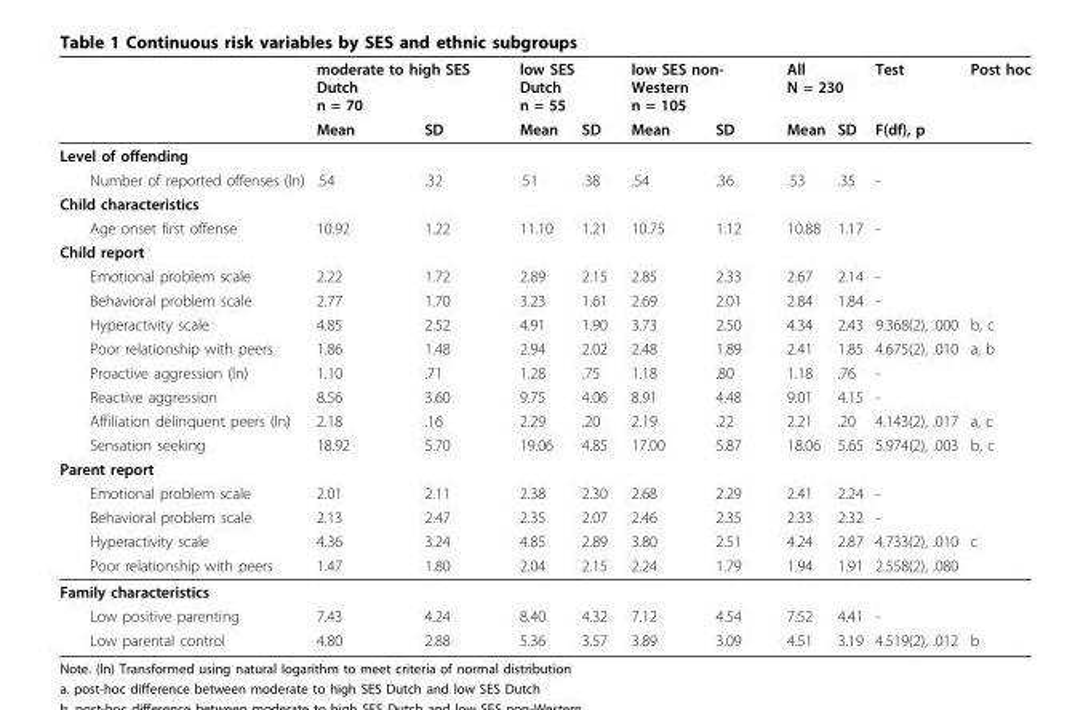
<table><thead><tr><td rowspan="2"></td><td colspan="2">moderate to high SES Dutch n = 70</td><td colspan="2">low SES Dutch n = 55</td><td colspan="2">low SES non- Western n = 105</td><td colspan="2">All N = 230</td><td rowspan="2">Test F(df), p</td><td rowspan="2">Post hoc</td></tr><tr><td>Mean</td><td>SD</td><td>Mean</td><td>SD</td><td>Mean</td><td>SD</td><td>Mean</td><td>SD</td></tr></thead><tbody><tr><td colspan="11">Level of offending</td></tr><tr><td>Number of reported offenses (ln)</td><td>.54</td><td>.32</td><td>.51</td><td>.38</td><td>.54</td><td>.36</td><td>.53</td><td>.35</td><td>-</td><td></td></tr><tr><td colspan="11">Child characteristics</td></tr><tr><td>Age onset first offense</td><td>10.92</td><td>1.22</td><td>11.10</td><td>1.21</td><td>10.75</td><td>1.12</td><td>10.88</td><td>1.17</td><td>-</td><td></td></tr><tr><td colspan="11">Child report</td></tr><tr><td>Emotional problem scale</td><td>2.22</td><td>1.72</td><td>2.89</td><td>2.15</td><td>2.85</td><td>2.33</td><td>2.67</td><td>2.14</td><td>-</td><td></td></tr><tr><td>Behavioral problem scale</td><td>2.77</td><td>1.70</td><td>3.23</td><td>1.61</td><td>2.69</td><td>2.01</td><td>2.84</td><td>1.84</td><td>-</td><td></td></tr><tr><td>Hyperactivity scale</td><td>4.85</td><td>2.52</td><td>4.91</td><td>1.90</td><td>3.73</td><td>2.50</td><td>4.34</td><td>2.43</td><td>9.368(2), .000</td><td>b, c</td></tr><tr><td>Poor relationship with peers</td><td>1.86</td><td>1.48</td><td>2.94</td><td>2.02</td><td>2.48</td><td>1.89</td><td>2.41</td><td>1.85</td><td>4.675(2), .010</td><td>a, b</td></tr><tr><td>Proactive aggression (ln)</td><td>1.10</td><td>.71</td><td>1.28</td><td>.75</td><td>1.18</td><td>.80</td><td>1.18</td><td>.76</td><td>-</td><td></td></tr><tr><td>Reactive aggression</td><td>8.56</td><td>3.60</td><td>9.75</td><td>4.06</td><td>8.91</td><td>4.48</td><td>9.01</td><td>4.15</td><td>-</td><td></td></tr><tr><td>Affiliation delinquent peers (ln)</td><td>2.18</td><td>.16</td><td>2.29</td><td>.20</td><td>2.19</td><td>.22</td><td>2.21</td><td>.20</td><td>4.143(2), .017</td><td>a, c</td></tr><tr><td>Sensation seeking</td><td>18.92</td><td>5.70</td><td>19.06</td><td>4.85</td><td>17.00</td><td>5.87</td><td>18.06</td><td>5.65</td><td>5.974(2), .003</td><td>b, c</td></tr><tr><td colspan="11">Parent report</td></tr><tr><td>Emotional problem scale</td><td>2.01</td><td>2.11</td><td>2.38</td><td>2.30</td><td>2.68</td><td>2.29</td><td>2.41</td><td>2.24</td><td>-</td><td></td></tr><tr><td>Behavioral problem scale</td><td>2.13</td><td>2.47</td><td>2.35</td><td>2.07</td><td>2.46</td><td>2.35</td><td>2.33</td><td>2.32</td><td>-</td><td></td></tr><tr><td>Hyperactivity scale</td><td>4.36</td><td>3.24</td><td>4.85</td><td>2.89</td><td>3.80</td><td>2.51</td><td>4.24</td><td>2.87</td><td>4.733(2), .010</td><td>c</td></tr><tr><td>Poor relationship with peers</td><td>1.47</td><td>1.80</td><td>2.04</td><td>2.15</td><td>2.24</td><td>1.79</td><td>1.94</td><td>1.91</td><td>2.558(2), .080</td><td></td></tr><tr><td colspan="11">Family characteristics</td></tr><tr><td>Low positive parenting</td><td>7.43</td><td>4.24</td><td>8.40</td><td>4.32</td><td>7.12</td><td>4.54</td><td>7.52</td><td>4.41</td><td>-</td><td></td></tr><tr><td>Low parental control</td><td>4.80</td><td>2.88</td><td>5.36</td><td>3.57</td><td>3.89</td><td>3.09</td><td>4.51</td><td>3.19</td><td>4.519(2), .012</td><td>b</td></tr></tbody></table>